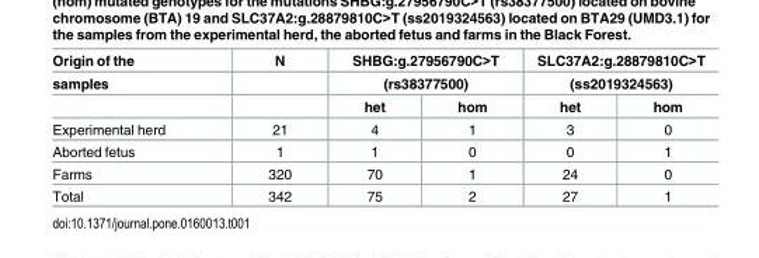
<table><thead><tr><td rowspan="3">Origin of the samples</td><td rowspan="3">N</td><td rowspan="2" colspan="2">SHBG:g.27956790C&gt;T (rs38377500)</td><td rowspan="2" colspan="2">SLC37A2:g.28879810C&gt;T (ss2019324563)</td></tr><tr></tr><tr><td>het</td><td>hom</td><td>het</td><td>hom</td></tr></thead><tbody><tr><td>Experimental herd</td><td>21</td><td>4</td><td>1</td><td>3</td><td>0</td></tr><tr><td>Aborted fetus</td><td>1</td><td>1</td><td>0</td><td>0</td><td>1</td></tr><tr><td>Farms</td><td>320</td><td>70</td><td>1</td><td>24</td><td>0</td></tr><tr><td>Total</td><td>342</td><td>75</td><td>2</td><td>27</td><td>1</td></tr></tbody></table>